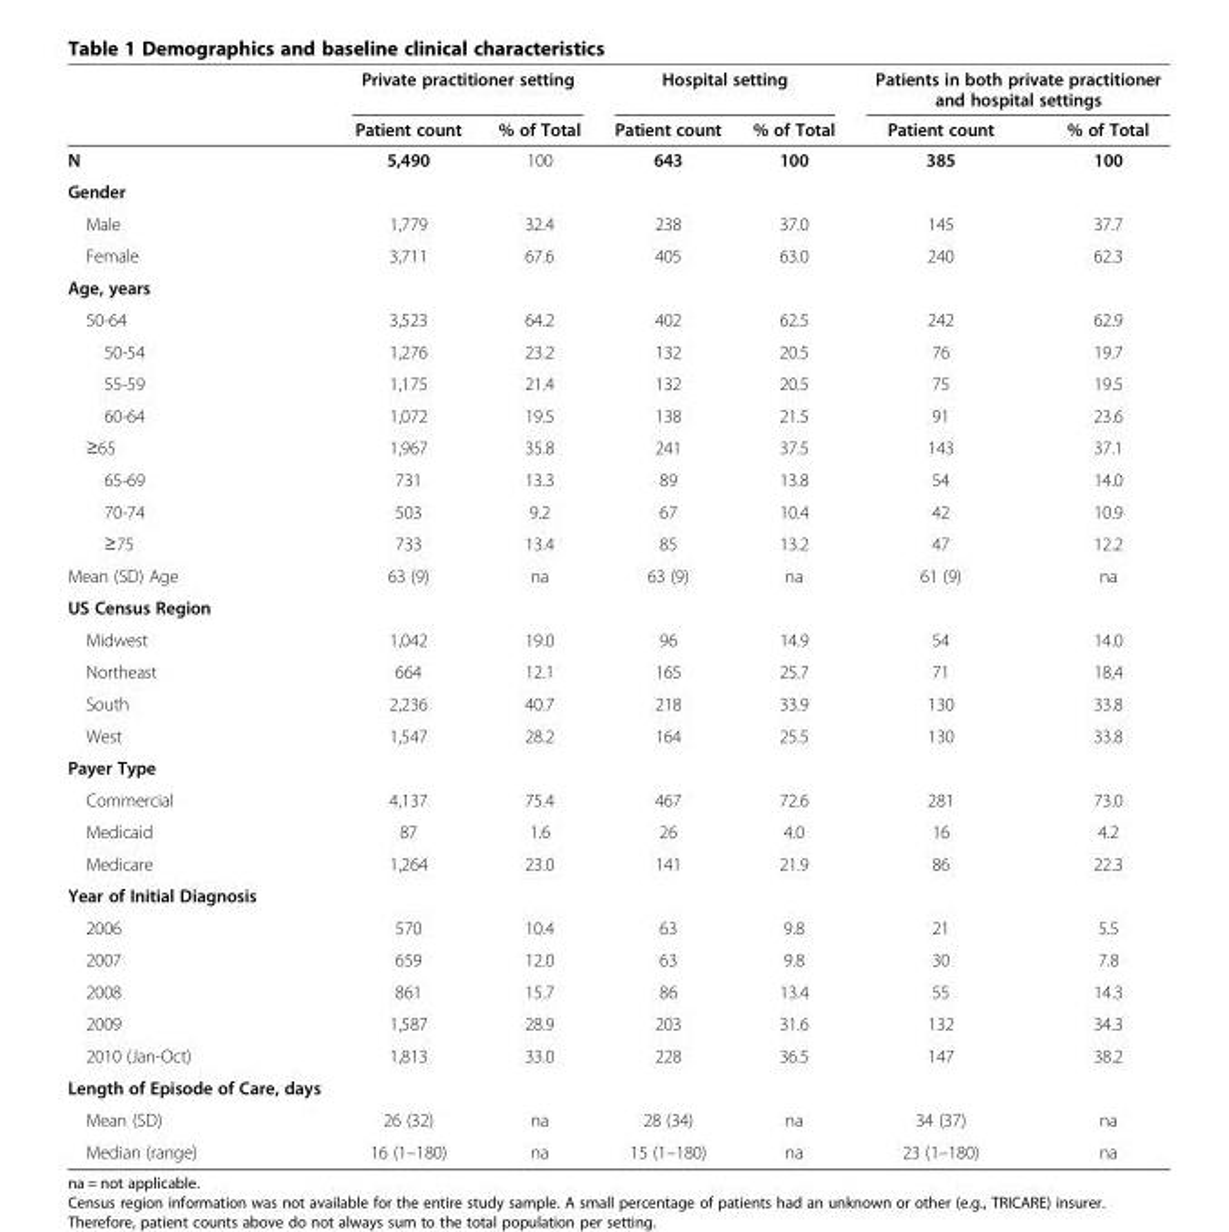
<table><thead><tr><td rowspan="2"></td><td colspan="2">Private practitioner setting</td><td colspan="2">Hospital setting</td><td colspan="2">Patients in both private practitioner and hospital settings</td></tr><tr><td>Patient count</td><td>% of Total</td><td>Patient count</td><td>% of Total</td><td>Patient count</td><td>% of Total</td></tr></thead><tbody><tr><td>N</td><td>5,490</td><td>100</td><td>643</td><td>100</td><td>385</td><td>100</td></tr><tr><td colspan="7">Gender</td></tr><tr><td>Male</td><td>1,779</td><td>32.4</td><td>238</td><td>37.0</td><td>145</td><td>37.7</td></tr><tr><td>Female</td><td>3,711</td><td>67.6</td><td>405</td><td>63.0</td><td>240</td><td>62.3</td></tr><tr><td colspan="7">Age, years</td></tr><tr><td>50-64</td><td>3,523</td><td>64.2</td><td>402</td><td>62.5</td><td>242</td><td>62.9</td></tr><tr><td>50-54</td><td>1,276</td><td>23.2</td><td>132</td><td>20.5</td><td>76</td><td>19.7</td></tr><tr><td>55-59</td><td>1,175</td><td>21.4</td><td>132</td><td>20.5</td><td>75</td><td>19.5</td></tr><tr><td>60-64</td><td>1,072</td><td>19.5</td><td>138</td><td>21.5</td><td>91</td><td>23.6</td></tr><tr><td>≥65</td><td>1,967</td><td>35.8</td><td>241</td><td>37.5</td><td>143</td><td>37.1</td></tr><tr><td>65-69</td><td>731</td><td>13.3</td><td>89</td><td>13.8</td><td>54</td><td>14.0</td></tr><tr><td>70-74</td><td>503</td><td>9.2</td><td>67</td><td>10.4</td><td>42</td><td>10.9</td></tr><tr><td>≥75</td><td>733</td><td>13.4</td><td>85</td><td>13.2</td><td>47</td><td>12.2</td></tr><tr><td>Mean (SD) Age</td><td>63 (9)</td><td>na</td><td>63 (9)</td><td>na</td><td>61 (9)</td><td>na</td></tr><tr><td colspan="7">US Census Region</td></tr><tr><td>Midwest</td><td>1,042</td><td>19.0</td><td>96</td><td>14.9</td><td>54</td><td>14.0</td></tr><tr><td>Northeast</td><td>664</td><td>12.1</td><td>165</td><td>25.7</td><td>71</td><td>18,4</td></tr><tr><td>South</td><td>2,236</td><td>40.7</td><td>218</td><td>33.9</td><td>130</td><td>33.8</td></tr><tr><td>West</td><td>1,547</td><td>28.2</td><td>164</td><td>25.5</td><td>130</td><td>33.8</td></tr><tr><td colspan="7">Payer Type</td></tr><tr><td>Commercial</td><td>4,137</td><td>75.4</td><td>467</td><td>72.6</td><td>281</td><td>73.0</td></tr><tr><td>Medicaid</td><td>87</td><td>1.6</td><td>26</td><td>4.0</td><td>16</td><td>4.2</td></tr><tr><td>Medicare</td><td>1,264</td><td>23.0</td><td>141</td><td>21.9</td><td>86</td><td>22.3</td></tr><tr><td colspan="7">Year of Initial Diagnosis</td></tr><tr><td>2006</td><td>570</td><td>10.4</td><td>63</td><td>9.8</td><td>21</td><td>5.5</td></tr><tr><td>2007</td><td>659</td><td>12.0</td><td>63</td><td>9.8</td><td>30</td><td>7.8</td></tr><tr><td>2008</td><td>861</td><td>15.7</td><td>86</td><td>13.4</td><td>55</td><td>14.3</td></tr><tr><td>2009</td><td>1,587</td><td>28.9</td><td>203</td><td>31.6</td><td>132</td><td>34.3</td></tr><tr><td>2010 (Jan-Oct)</td><td>1,813</td><td>33.0</td><td>228</td><td>36.5</td><td>147</td><td>38.2</td></tr><tr><td colspan="7">Length of Episode of Care, days</td></tr><tr><td>Mean (SD)</td><td>26 (32)</td><td>na</td><td>28 (34)</td><td>na</td><td>34 (37)</td><td>na</td></tr><tr><td>Median (range)</td><td>16 (1–180)</td><td>na</td><td>15 (1–180)</td><td>na</td><td>23 (1–180)</td><td>na</td></tr></tbody></table>